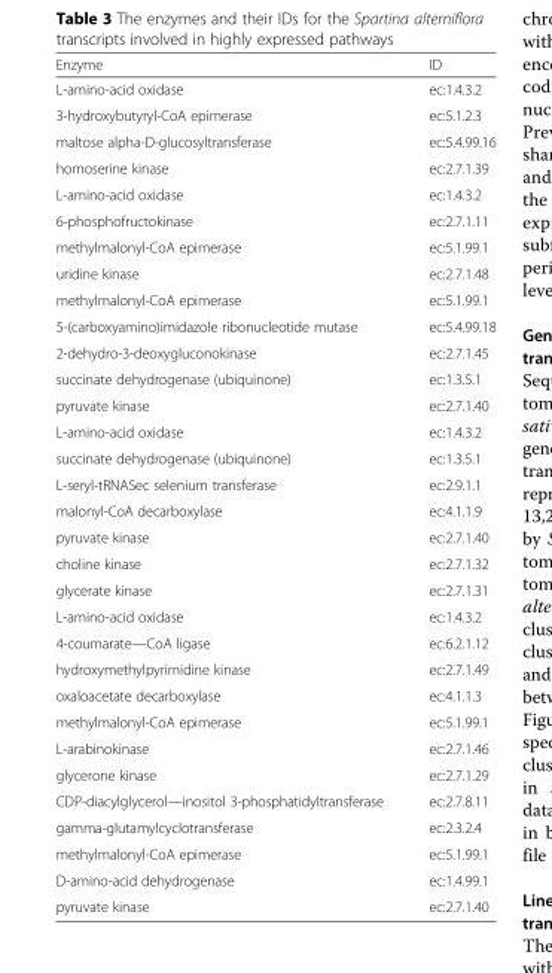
<table><thead><tr><td>Enzyme</td><td>ID</td></tr></thead><tbody><tr><td>L-amino-acid oxidase</td><td>ec:1.4.3.2</td></tr><tr><td>3-hydroxybutyryl-CoA epimerase</td><td>ec:5.1.2.3</td></tr><tr><td>maltose alpha-D-glucosyltransferase</td><td>ec:5.4.99.16</td></tr><tr><td>homoserine kinase</td><td>ec:2.7.1.39</td></tr><tr><td>L-amino-acid oxidase</td><td>ec:1.4.3.2</td></tr><tr><td>6-phosphofructokinase</td><td>ec:2.7.1.11</td></tr><tr><td>methylmalonyl-CoA epimerase</td><td>ec:5.1.99.1</td></tr><tr><td>uridine kinase</td><td>ec:2.7.1.48</td></tr><tr><td>methylmalonyl-CoA epimerase</td><td>ec:5.1.99.1</td></tr><tr><td>5-(carboxyamino)imidazole ribonucleotide mutase</td><td>ec:5.4.99.18</td></tr><tr><td>2-dehydro-3-deoxygluconokinase</td><td>ec:2.7.1.45</td></tr><tr><td>succinate dehydrogenase (ubiquinone)</td><td>ec:1.3.5.1</td></tr><tr><td>pyruvate kinase</td><td>ec:2.7.1.40</td></tr><tr><td>L-amino-acid oxidase</td><td>ec:1.4.3.2</td></tr><tr><td>succinate dehydrogenase (ubiquinone)</td><td>ec:1.3.5.1</td></tr><tr><td>L-seryl-tRNASec selenium transferase</td><td>ec:2.9.1.1</td></tr><tr><td>malonyl-CoA decarboxylase</td><td>ec:4.1.1.9</td></tr><tr><td>pyruvate kinase</td><td>ec:2.7.1.40</td></tr><tr><td>choline kinase</td><td>ec:2.7.1.32</td></tr><tr><td>glycerate kinase</td><td>ec:2.7.1.31</td></tr><tr><td>L-amino-acid oxidase</td><td>ec:1.4.3.2</td></tr><tr><td>4-coumarate—CoA ligase</td><td>ec:6.2.1.12</td></tr><tr><td>hydroxymethylpyrimidine kinase</td><td>ec:2.7.1.49</td></tr><tr><td>oxaloacetate decarboxylase</td><td>ec:4.1.1.3</td></tr><tr><td>methylmalonyl-CoA epimerase</td><td>ec:5.1.99.1</td></tr><tr><td>L-arabinokinase</td><td>ec:2.7.1.46</td></tr><tr><td>glycerone kinase</td><td>ec:2.7.1.29</td></tr><tr><td>CDP-diacylglycerol—inositol 3-phosphatidyltransferase</td><td>ec:2.7.8.11</td></tr><tr><td>gamma-glutamylcyclotransferase</td><td>ec:2.3.2.4</td></tr><tr><td>methylmalonyl-CoA epimerase</td><td>ec:5.1.99.1</td></tr><tr><td>D-amino-acid dehydrogenase</td><td>ec:1.4.99.1</td></tr><tr><td>pyruvate kinase</td><td>ec:2.7.1.40</td></tr></tbody></table>